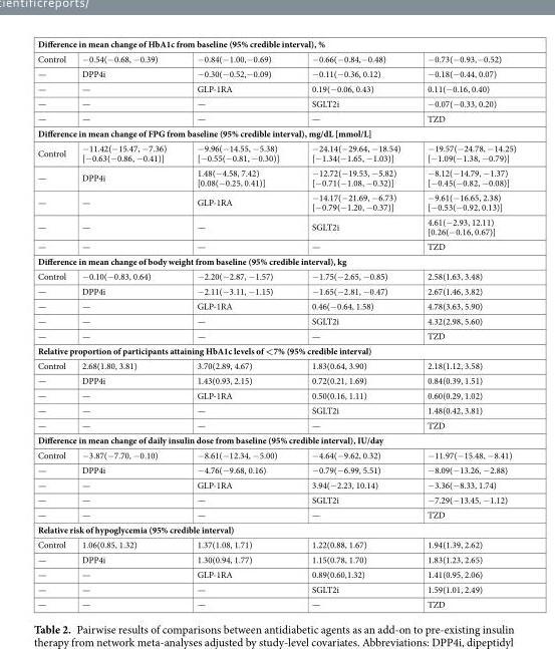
<table><thead><tr><td colspan="5">Difference in mean change of HbA1c from baseline (95% credible interval), %</td></tr><tr><td>Control</td><td>−0.54(−0.68, −0.39)</td><td>−0.84(−1.00,−0.69)</td><td>−0.66(−0.84,−0.48)</td><td>−0.73(−0.93,−0.52)</td></tr></thead><tbody><tr><td>—</td><td>DPP4i</td><td>−0.30(−0.52,−0.09)</td><td>−0.11(−0.36, 0.12)</td><td>−0.18(−0.44, 0.07)</td></tr><tr><td>—</td><td>—</td><td>GLP-1RA</td><td>0.19(−0.06, 0.43)</td><td>0.11(−0.16, 0.40)</td></tr><tr><td>—</td><td>—</td><td>—</td><td>SGLT2i</td><td>−0.07(−0.33, 0.20)</td></tr><tr><td>—</td><td>—</td><td>—</td><td>—</td><td>TZD</td></tr><tr><td colspan="5">Difference in mean change of FPG from baseline (95% credible interval), mg/dL [mmol/L]</td></tr><tr><td>Control</td><td>−11.42(−15.47, −7.36) [−0.63(−0.86, −0.41)]</td><td>−9.96(−14.55, −5.38) [−0.55(−0.81, −0.30)]</td><td>−24.14(−29.64, −18.54) [−1.34(−1.65, −1.03)]</td><td>−19.57(−24.78, −14.25) [−1.09(−1.38, −0.79)]</td></tr><tr><td>—</td><td>DPP4i</td><td>1.48(−4.58, 7.42) [0.08(−0.25, 0.41)]</td><td>−12.72(−19.53, −5.82) [−0.71(−1.08, −0.32)]</td><td>−8.12(−14.79, −1.37) [−0.45(−0.82, −0.08)]</td></tr><tr><td>—</td><td>—</td><td>GLP-1RA</td><td>−14.17(−21.69, −6.73) [−0.79(−1.20, −0.37)]</td><td>−9.61(−16.65, 2.38) [−0.53(−0.92, 0.13)]</td></tr><tr><td>—</td><td>—</td><td>—</td><td>SGLT2i</td><td>4.61(−2.93, 12.11) [0.26(−0.16, 0.67)]</td></tr><tr><td>—</td><td>—</td><td>—</td><td>—</td><td>TZD</td></tr><tr><td colspan="5">Difference in mean change of body weight from baseline (95% credible interval), kg</td></tr><tr><td>Control</td><td>−0.10(−0.83, 0.64)</td><td>−2.20(−2.87, −1.57)</td><td>−1.75(−2.65, −0.85)</td><td>2.58(1.63, 3.48)</td></tr><tr><td>—</td><td>DPP4i</td><td>−2.11(−3.11, −1.15)</td><td>−1.65(−2.81, −0.47)</td><td>2.67(1.46, 3.82)</td></tr><tr><td>—</td><td>—</td><td>GLP-1RA</td><td>0.46(−0.64, 1.58)</td><td>4.78(3.63, 5.90)</td></tr><tr><td>—</td><td>—</td><td>—</td><td>SGLT2i</td><td>4.32(2.98, 5.60)</td></tr><tr><td>—</td><td>—</td><td>—</td><td>—</td><td>TZD</td></tr><tr><td colspan="5">Relative proportion of participants attaining HbA1c levels of &lt;7% (95% credible interval)</td></tr><tr><td>Control</td><td>2.68(1.80, 3.81)</td><td>3.70(2.89, 4.67)</td><td>1.83(0.64, 3.90)</td><td>2.18(1.12, 3.58)</td></tr><tr><td>—</td><td>DPP4i</td><td>1.43(0.93, 2.15)</td><td>0.72(0.21, 1.69)</td><td>0.84(0.39, 1.51)</td></tr><tr><td>—</td><td>—</td><td>GLP-1RA</td><td>0.50(0.16, 1.11)</td><td>0.60(0.29, 1.02)</td></tr><tr><td>—</td><td>—</td><td>—</td><td>SGLT2i</td><td>1.48(0.42, 3.81)</td></tr><tr><td>—</td><td>—</td><td>—</td><td>—</td><td>TZD</td></tr><tr><td colspan="5">Difference in mean change of daily insulin dose from baseline (95% credible interval), IU/day</td></tr><tr><td>Control</td><td>−3.87(−7.70, −0.10)</td><td>−8.61(−12.34, −5.00)</td><td>−4.64(−9.62, 0.32)</td><td>−11.97(−15.48, −8.41)</td></tr><tr><td>—</td><td>DPP4i</td><td>−4.76(−9.68, 0.16)</td><td>−0.79(−6.99, 5.51)</td><td>−8.09(−13.26, −2.88)</td></tr><tr><td>—</td><td>—</td><td>GLP-1RA</td><td>3.94(−2.23, 10.14)</td><td>−3.36(−8.33, 1.74)</td></tr><tr><td>—</td><td>—</td><td>—</td><td>SGLT2i</td><td>−7.29(−13.45, −1.12)</td></tr><tr><td>—</td><td>—</td><td>—</td><td>—</td><td>TZD</td></tr><tr><td colspan="5">Relative risk of hypoglycemia (95% credible interval)</td></tr><tr><td>Control</td><td>1.06(0.85, 1.32)</td><td>1.37(1.08, 1.71)</td><td>1.22(0.88, 1.67)</td><td>1.94(1.39, 2.62)</td></tr><tr><td>—</td><td>DPP4i</td><td>1.30(0.94, 1.77)</td><td>1.15(0.78, 1.70)</td><td>1.83(1.23, 2.65)</td></tr><tr><td>—</td><td>—</td><td>GLP-1RA</td><td>0.89(0.60,1.32)</td><td>1.41(0.95, 2.06)</td></tr><tr><td>—</td><td>—</td><td>—</td><td>SGLT2i</td><td>1.59(1.01, 2.49)</td></tr><tr><td>—</td><td>—</td><td>—</td><td>—</td><td>TZD</td></tr></tbody></table>